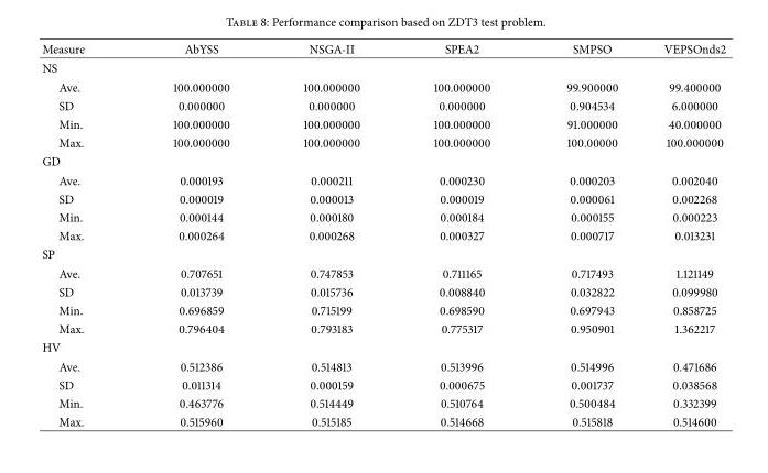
<table><thead><tr><td>Measure</td><td>AbYSS</td><td>NSGA-II</td><td>SPEA2</td><td>SMPSO</td><td>VEPSOnds2</td></tr></thead><tbody><tr><td colspan="6">NS</td></tr><tr><td>Ave.</td><td>100.000000</td><td>100.000000</td><td>100.000000</td><td>99.900000</td><td>99.400000</td></tr><tr><td>SD</td><td>0.000000</td><td>0.000000</td><td>0.000000</td><td>0.904534</td><td>6.000000</td></tr><tr><td>Min.</td><td>100.000000</td><td>100.000000</td><td>100.000000</td><td>91.000000</td><td>40.000000</td></tr><tr><td>Max.</td><td>100.000000</td><td>100.000000</td><td>100.000000</td><td>100.00000</td><td>100.000000</td></tr><tr><td colspan="6">GD</td></tr><tr><td>Ave.</td><td>0.000193</td><td>0.000211</td><td>0.000230</td><td>0.000203</td><td>0.002040</td></tr><tr><td>SD</td><td>0.000019</td><td>0.000013</td><td>0.000019</td><td>0.000061</td><td>0.002268</td></tr><tr><td>Min.</td><td>0.000144</td><td>0.000180</td><td>0.000184</td><td>0.000155</td><td>0.000223</td></tr><tr><td>Max.</td><td>0.000264</td><td>0.000268</td><td>0.000327</td><td>0.000717</td><td>0.013231</td></tr><tr><td colspan="6">SP</td></tr><tr><td>Ave.</td><td>0.707651</td><td>0.747853</td><td>0.711165</td><td>0.717493</td><td>1.121149</td></tr><tr><td>SD</td><td>0.013739</td><td>0.015736</td><td>0.008840</td><td>0.032822</td><td>0.099980</td></tr><tr><td>Min.</td><td>0.696859</td><td>0.715199</td><td>0.698590</td><td>0.697943</td><td>0.858725</td></tr><tr><td>Max.</td><td>0.796404</td><td>0.793183</td><td>0.775317</td><td>0.950901</td><td>1.362217</td></tr><tr><td colspan="6">HV</td></tr><tr><td>Ave.</td><td>0.512386</td><td>0.514813</td><td>0.513996</td><td>0.514996</td><td>0.471686</td></tr><tr><td>SD</td><td>0.011314</td><td>0.000159</td><td>0.000675</td><td>0.001737</td><td>0.038568</td></tr><tr><td>Min.</td><td>0.463776</td><td>0.514449</td><td>0.510764</td><td>0.500484</td><td>0.332399</td></tr><tr><td>Max.</td><td>0.515960</td><td>0.515185</td><td>0.514668</td><td>0.515818</td><td>0.514600</td></tr></tbody></table>